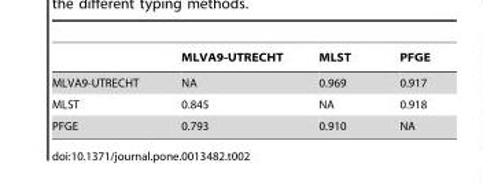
<table><thead><tr><td></td><td>MLVA9-UTRECHT</td><td>MLST</td><td>PFGE</td></tr></thead><tbody><tr><td>MLVA9-UTRECHT</td><td>NA</td><td>0.969</td><td>0.917</td></tr><tr><td>MLST</td><td>0.845</td><td>NA</td><td>0.918</td></tr><tr><td>PFGE</td><td>0.793</td><td>0.910</td><td>NA</td></tr></tbody></table>